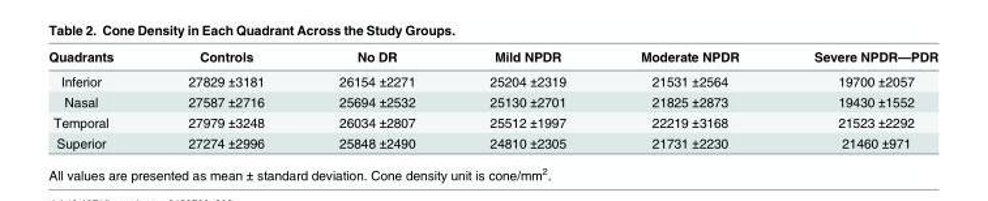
<table><thead><tr><td>Quadrants</td><td>Controls</td><td>No DR</td><td>Mild NPDR</td><td>Moderate NPDR</td><td>Severe NPDR—PDR</td></tr></thead><tbody><tr><td>Inferior</td><td>27829 ±3181</td><td>26154 ±2271</td><td>25204 ±2319</td><td>21531 ±2564</td><td>19700 ±2057</td></tr><tr><td>Nasal</td><td>27587 ±2716</td><td>25694 ±2532</td><td>25130 ±2701</td><td>21825 ±2873</td><td>19430 ±1552</td></tr><tr><td>Temporal</td><td>27979 ±3248</td><td>26034 ±2807</td><td>25512 ±1997</td><td>22219 ±3168</td><td>21523 ±2292</td></tr><tr><td>Superior</td><td>27274 ±2996</td><td>25848 ±2490</td><td>24810 ±2305</td><td>21731 ±2230</td><td>21460 ±971</td></tr></tbody></table>